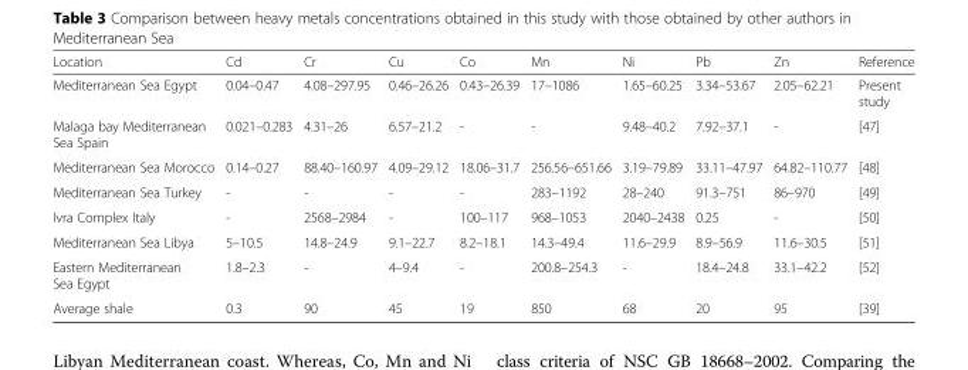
<table><thead><tr><td>Location</td><td>Cd</td><td>Cr</td><td>Cu</td><td>Co</td><td>Mn</td><td>Ni</td><td>Pb</td><td>Zn</td><td>Reference</td></tr></thead><tbody><tr><td>Mediterranean Sea Egypt</td><td>0.04–0.47</td><td>4.08–297.95</td><td>0.46–26.26</td><td>0.43–26.39</td><td>17–1086</td><td>1.65–60.25</td><td>3.34–53.67</td><td>2.05–62.21</td><td>Present study</td></tr><tr><td>Malaga bay Mediterranean Sea Spain</td><td>0.021–0.283</td><td>4.31–26</td><td>6.57–21.2</td><td>-</td><td>-</td><td>9.48–40.2</td><td>7.92–37.1</td><td>-</td><td>[47]</td></tr><tr><td>Mediterranean Sea Morocco</td><td>0.14–0.27</td><td>88.40–160.97</td><td>4.09–29.12</td><td>18.06–31.7</td><td>256.56–651.66</td><td>3.19–79.89</td><td>33.11–47.97</td><td>64.82–110.77</td><td>[48]</td></tr><tr><td>Mediterranean Sea Turkey</td><td>-</td><td>-</td><td>-</td><td>-</td><td>283–1192</td><td>28–240</td><td>91.3–751</td><td>86–970</td><td>[49]</td></tr><tr><td>Ivra Complex Italy</td><td>-</td><td>2568–2984</td><td>-</td><td>100–117</td><td>968–1053</td><td>2040–2438</td><td>0.25</td><td>-</td><td>[50]</td></tr><tr><td>Mediterranean Sea Libya</td><td>5–10.5</td><td>14.8–24.9</td><td>9.1–22.7</td><td>8.2–18.1</td><td>14.3–49.4</td><td>11.6–29.9</td><td>8.9–56.9</td><td>11.6–30.5</td><td>[51]</td></tr><tr><td>Eastern Mediterranean Sea Egypt</td><td>1.8–2.3</td><td>-</td><td>4–9.4</td><td>-</td><td>200.8–254.3</td><td>-</td><td>18.4–24.8</td><td>33.1–42.2</td><td>[52]</td></tr><tr><td>Average shale</td><td>0.3</td><td>90</td><td>45</td><td>19</td><td>850</td><td>68</td><td>20</td><td>95</td><td>[39]</td></tr></tbody></table>